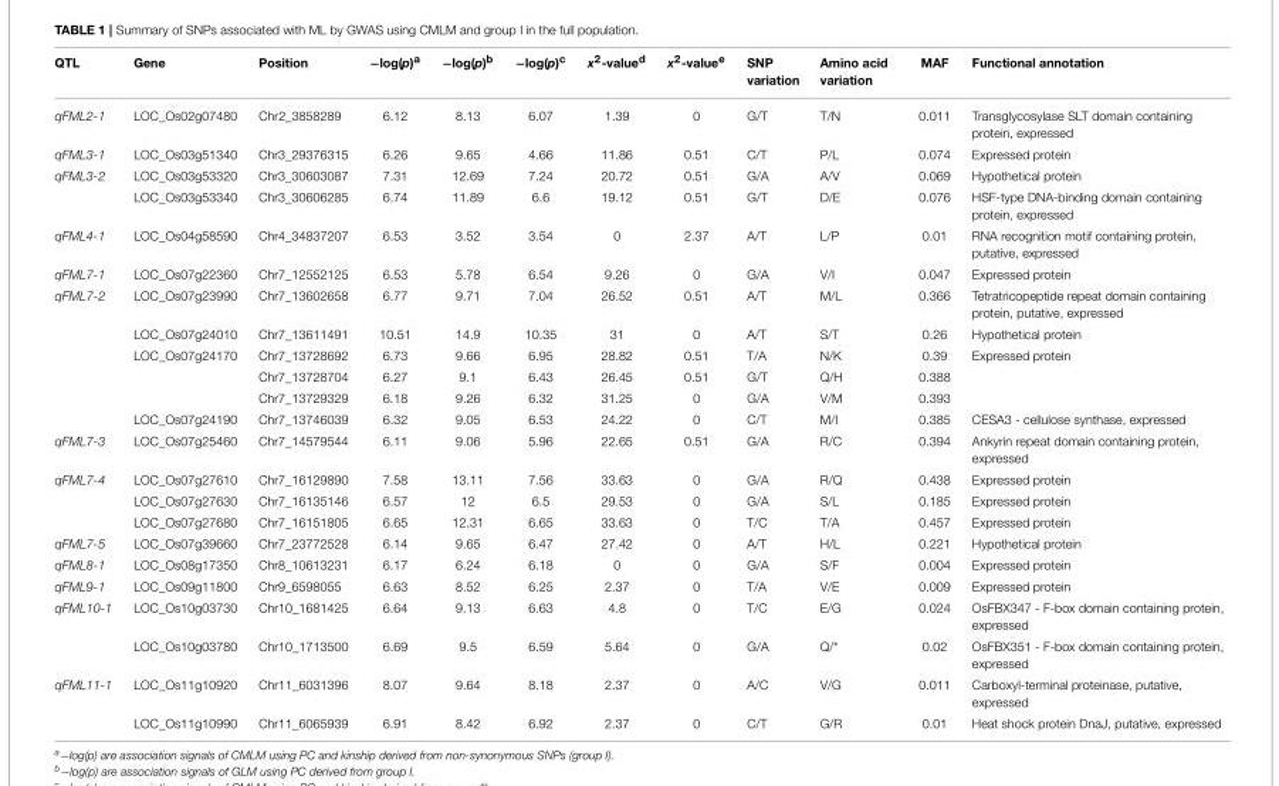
<table><thead><tr><td>QTL</td><td>Gene</td><td>Position</td><td>−log(p)<sup>a</sup></td><td>−log(p)<sup>b</sup></td><td>−log(p)<sup>c</sup></td><td>x<sup>2</sup>-value<sup>d</sup></td><td>x<sup>2</sup>-value<sup>e</sup></td><td>SNP variation</td><td>Amino acid variation</td><td>MAF</td><td>Functional annotation</td></tr></thead><tbody><tr><td>qFML2-1</td><td>LOC_Os02g07480</td><td>Chr2_3858289</td><td>6.12</td><td>8.13</td><td>6.07</td><td>1.39</td><td>0</td><td>G/T</td><td>T/N</td><td>0.011</td><td>Transglycosylase SLT domain containing protein, expressed</td></tr><tr><td>qFML3-1</td><td>LOC_Os03g51340</td><td>Chr3_29376315</td><td>6.26</td><td>9.65</td><td>4.66</td><td>11.86</td><td>0.51</td><td>C/T</td><td>P/L</td><td>0.074</td><td>Expressed protein</td></tr><tr><td rowspan="2">qFML3-2</td><td>LOC_Os03g53320</td><td>Chr3_30603087</td><td>7.31</td><td>12.69</td><td>7.24</td><td>20.72</td><td>0.51</td><td>G/A</td><td>A/V</td><td>0.069</td><td>Hypothetical protein</td></tr><tr><td>LOC_Os03g53340</td><td>Chr3_30606285</td><td>6.74</td><td>11.89</td><td>6.6</td><td>19.12</td><td>0.51</td><td>G/T</td><td>D/E</td><td>0.076</td><td>HSF-type DNA-binding domain containing protein, expressed</td></tr><tr><td>qFML4-1</td><td>LOC_Os04g58590</td><td>Chr4_34837207</td><td>6.53</td><td>3.52</td><td>3.54</td><td>0</td><td>2.37</td><td>A/T</td><td>L/P</td><td>0.01</td><td>RNA recognition motif containing protein, putative, expressed</td></tr><tr><td>qFML7-1</td><td>LOC_Os07g22360</td><td>Chr7_12552125</td><td>6.53</td><td>5.78</td><td>6.54</td><td>9.26</td><td>0</td><td>G/A</td><td>V/I</td><td>0.047</td><td>Expressed protein</td></tr><tr><td rowspan="6">qFML7-2</td><td>LOC_Os07g23990</td><td>Chr7_13602658</td><td>6.77</td><td>9.71</td><td>7.04</td><td>26.52</td><td>0.51</td><td>A/T</td><td>M/L</td><td>0.366</td><td>Tetratricopeptide repeat domain containing protein, putative, expressed</td></tr><tr><td>LOC_Os07g24010</td><td>Chr7_13611491</td><td>10.51</td><td>14.9</td><td>10.35</td><td>31</td><td>0</td><td>A/T</td><td>S/T</td><td>0.26</td><td>Hypothetical protein</td></tr><tr><td>LOC_Os07g24170</td><td>Chr7_13728692</td><td>6.73</td><td>9.66</td><td>6.95</td><td>28.82</td><td>0.51</td><td>T/A</td><td>N/K</td><td>0.39</td><td>Expressed protein</td></tr><tr><td></td><td>Chr7_13728704</td><td>6.27</td><td>9.1</td><td>6.43</td><td>26.45</td><td>0.51</td><td>G/T</td><td>Q/H</td><td>0.388</td><td></td></tr><tr><td></td><td>Chr7_13729329</td><td>6.18</td><td>9.26</td><td>6.32</td><td>31.25</td><td>0</td><td>G/A</td><td>V/M</td><td>0.393</td><td></td></tr><tr><td>LOC_Os07g24190</td><td>Chr7_13746039</td><td>6.32</td><td>9.05</td><td>6.53</td><td>24.22</td><td>0</td><td>C/T</td><td>M/I</td><td>0.385</td><td>CESA3 - cellulose synthase, expressed</td></tr><tr><td>qFML7-3</td><td>LOC_Os07g25460</td><td>Chr7_14579544</td><td>6.11</td><td>9.06</td><td>5.96</td><td>22.65</td><td>0.51</td><td>G/A</td><td>R/C</td><td>0.394</td><td>Ankyrin repeat domain containing protein, expressed</td></tr><tr><td rowspan="3">qFML7-4</td><td>LOC_Os07g27610</td><td>Chr7_16129890</td><td>7.58</td><td>13.11</td><td>7.56</td><td>33.63</td><td>0</td><td>G/A</td><td>R/Q</td><td>0.438</td><td>Expressed protein</td></tr><tr><td>LOC_Os07g27630</td><td>Chr7_16135146</td><td>6.57</td><td>12</td><td>6.5</td><td>29.53</td><td>0</td><td>G/A</td><td>S/L</td><td>0.185</td><td>Expressed protein</td></tr><tr><td>LOC_Os07g27680</td><td>Chr7_16151805</td><td>6.65</td><td>12.31</td><td>6.65</td><td>33.63</td><td>0</td><td>T/C</td><td>T/A</td><td>0.457</td><td>Expressed protein</td></tr><tr><td>qFML7-5</td><td>LOC_Os07g39660</td><td>Chr7_23772528</td><td>6.14</td><td>9.65</td><td>6.47</td><td>27.42</td><td>0</td><td>A/T</td><td>H/L</td><td>0.221</td><td>Hypothetical protein</td></tr><tr><td>qFML8-1</td><td>LOC_Os08g17350</td><td>Chr8_10613231</td><td>6.17</td><td>6.24</td><td>6.18</td><td>0</td><td>0</td><td>G/A</td><td>S/F</td><td>0.004</td><td>Expressed protein</td></tr><tr><td>qFML9-1</td><td>LOC_Os09g11800</td><td>Chr9_6598055</td><td>6.63</td><td>8.52</td><td>6.25</td><td>2.37</td><td>0</td><td>T/A</td><td>V/E</td><td>0.009</td><td>Expressed protein</td></tr><tr><td rowspan="2">qFML10-1</td><td>LOC_Os10g03730</td><td>Chr10_1681425</td><td>6.64</td><td>9.13</td><td>6.63</td><td>4.8</td><td>0</td><td>T/C</td><td>E/G</td><td>0.024</td><td>OsFBX347 - F-box domain containing protein, expressed</td></tr><tr><td>LOC_Os10g03780</td><td>Chr10_1713500</td><td>6.69</td><td>9.5</td><td>6.59</td><td>5.64</td><td>0</td><td>G/A</td><td>Q/*</td><td>0.02</td><td>OsFBX351 - F-box domain containing protein, expressed</td></tr><tr><td rowspan="2">qFML11-1</td><td>LOC_Os11g10920</td><td>Chr11_6031396</td><td>8.07</td><td>9.64</td><td>8.18</td><td>2.37</td><td>0</td><td>A/C</td><td>V/G</td><td>0.011</td><td>Carboxyl-terminal proteinase, putative, expressed</td></tr><tr><td>LOC_Os11g10990</td><td>Chr11_6065939</td><td>6.91</td><td>8.42</td><td>6.92</td><td>2.37</td><td>0</td><td>C/T</td><td>G/R</td><td>0.01</td><td>Heat shock protein DnaJ, putative, expressed</td></tr></tbody></table>